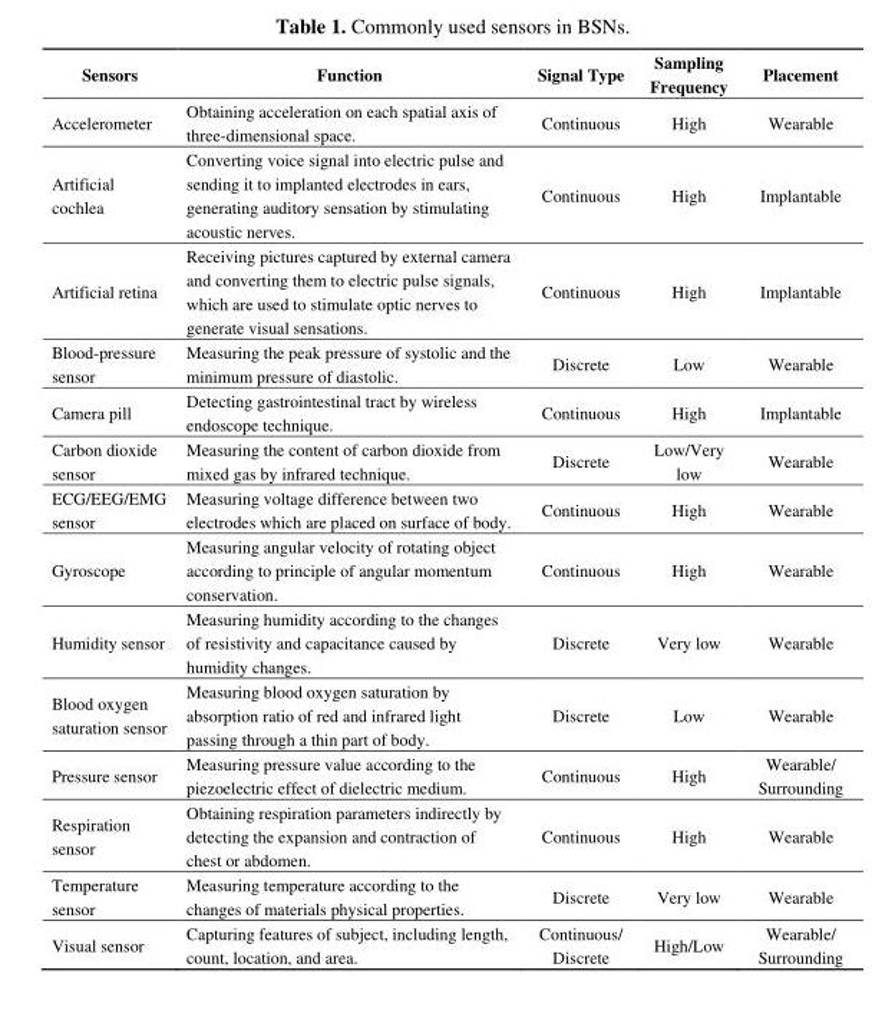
<table><thead><tr><td>Sensors</td><td>Function</td><td>Signal Type</td><td>Sampling Frequency</td><td>Placement</td></tr></thead><tbody><tr><td>Accelerometer</td><td>Obtaining acceleration on each spatial axis of three-dimensional space.</td><td>Continuous</td><td>High</td><td>Wearable</td></tr><tr><td>Artificial cochlea</td><td>Converting voice signal into electric pulse and sending it to implanted electrodes in ears, generating auditory sensation by stimulating acoustic nerves.</td><td>Continuous</td><td>High</td><td>Implantable</td></tr><tr><td>Artificial retina</td><td>Receiving pictures captured by external camera and converting them to electric pulse signals, which are used to stimulate optic nerves to generate visual sensations.</td><td>Continuous</td><td>High</td><td>Implantable</td></tr><tr><td>Blood-pressure sensor</td><td>Measuring the peak pressure of systolic and the minimum pressure of diastolic.</td><td>Discrete</td><td>Low</td><td>Wearable</td></tr><tr><td>Camera pill</td><td>Detecting gastrointestinal tract by wireless endoscope technique.</td><td>Continuous</td><td>High</td><td>Implantable</td></tr><tr><td>Carbon dioxide sensor</td><td>Measuring the content of carbon dioxide from mixed gas by infrared technique.</td><td>Discrete</td><td>Low/Very low</td><td>Wearable</td></tr><tr><td>ECG/EEG/EMG sensor</td><td>Measuring voltage difference between two electrodes which are placed on surface of body.</td><td>Continuous</td><td>High</td><td>Wearable</td></tr><tr><td>Gyroscope</td><td>Measuring angular velocity of rotating object according to principle of angular momentum conservation.</td><td>Continuous</td><td>High</td><td>Wearable</td></tr><tr><td>Humidity sensor</td><td>Measuring humidity according to the changes of resistivity and capacitance caused by humidity changes.</td><td>Discrete</td><td>Very low</td><td>Wearable</td></tr><tr><td>Blood oxygen saturation sensor</td><td>Measuring blood oxygen saturation by absorption ratio of red and infrared light passing through a thin part of body.</td><td>Discrete</td><td>Low</td><td>Wearable</td></tr><tr><td>Pressure sensor</td><td>Measuring pressure value according to the piezoelectric effect of dielectric medium.</td><td>Continuous</td><td>High</td><td>Wearable/ Surrounding</td></tr><tr><td>Respiration sensor</td><td>Obtaining respiration parameters indirectly by detecting the expansion and contraction of chest or abdomen.</td><td>Continuous</td><td>High</td><td>Wearable</td></tr><tr><td>Temperature sensor</td><td>Measuring temperature according to the changes of materials physical properties.</td><td>Discrete</td><td>Very low</td><td>Wearable</td></tr><tr><td>Visual sensor</td><td>Capturing features of subject, including length, count, location, and area.</td><td>Continuous/ Discrete</td><td>High/Low</td><td>Wearable/ Surrounding</td></tr></tbody></table>